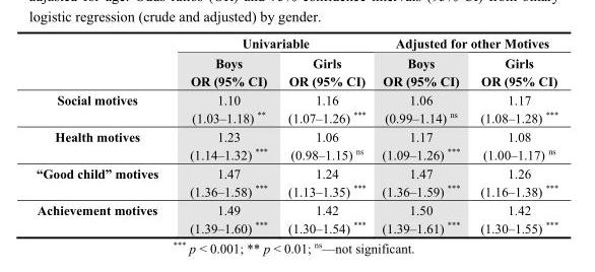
<table><thead><tr><td rowspan="2"></td><td colspan="2">Univariable</td><td colspan="2">Adjusted for other Motives</td></tr><tr><td>Boys OR (95% CI)</td><td>Girls OR (95% CI)</td><td>Boys OR (95% CI)</td><td>Girls OR (95% CI)</td></tr></thead><tbody><tr><td>Social motives</td><td>1.10 (1.03–1.18) **</td><td>1.16 (1.07–1.26) ***</td><td>1.06 (0.99–1.14) <sup>ns</sup></td><td>1.17 (1.08–1.28) ***</td></tr><tr><td>Health motives</td><td>1.23 (1.14–1.32) ***</td><td>1.06 (0.98–1.15) <sup>ns</sup></td><td>1.17 (1.09–1.26) ***</td><td>1.08 (1.00–1.17) <sup>ns</sup></td></tr><tr><td>“Good child” motives</td><td>1.47 (1.36–1.58) ***</td><td>1.24 (1.13–1.35) ***</td><td>1.47 (1.36–1.59) ***</td><td>1.26 (1.16–1.38) ***</td></tr><tr><td>Achievement motives</td><td>1.49 (1.39–1.60) ***</td><td>1.42 (1.30–1.54) ***</td><td>1.50 (1.39–1.61) ***</td><td>1.42 (1.30–1.55) ***</td></tr></tbody></table>